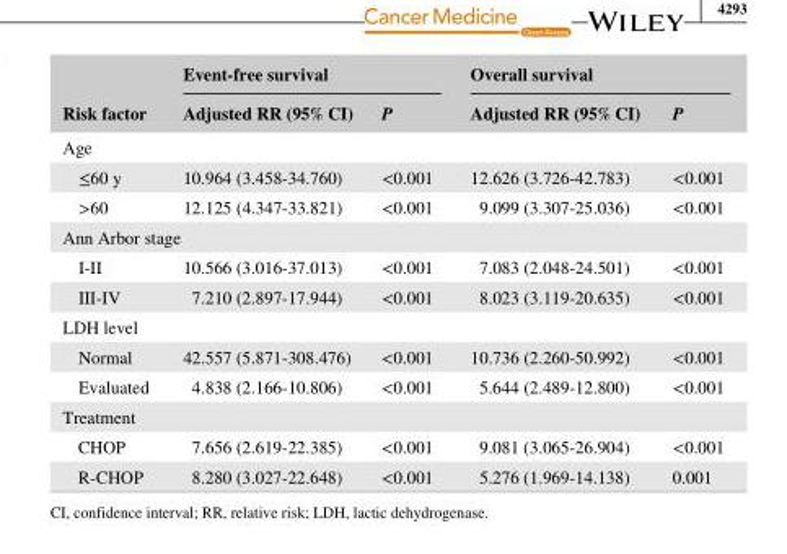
<table><thead><tr><td rowspan="2">Risk factor</td><td colspan="2">Event- free survival</td><td colspan="2">Overall survival</td></tr><tr><td>Adjusted RR (95% CI)</td><td>P</td><td>Adjusted RR (95% CI)</td><td>P</td></tr></thead><tbody><tr><td colspan="5">Age</td></tr><tr><td>≤60 y</td><td>10.964 (3.458- 34.760)</td><td>&lt;0.001</td><td>12.626 (3.726- 42.783)</td><td>&lt;0.001</td></tr><tr><td>&gt;60</td><td>12.125 (4.347- 33.821)</td><td>&lt;0.001</td><td>9.099 (3.307- 25.036)</td><td>&lt;0.001</td></tr><tr><td colspan="5">Ann Arbor stage</td></tr><tr><td>I- II</td><td>10.566 (3.016- 37.013)</td><td>&lt;0.001</td><td>7.083 (2.048- 24.501)</td><td>&lt;0.001</td></tr><tr><td>III- IV</td><td>7.210 (2.897- 17.944)</td><td>&lt;0.001</td><td>8.023 (3.119- 20.635)</td><td>&lt;0.001</td></tr><tr><td colspan="5">LDH level</td></tr><tr><td>Normal</td><td>42.557 (5.871- 308.476)</td><td>&lt;0.001</td><td>10.736 (2.260- 50.992)</td><td>&lt;0.001</td></tr><tr><td>Evaluated</td><td>4.838 (2.166- 10.806)</td><td>&lt;0.001</td><td>5.644 (2.489- 12.800)</td><td>&lt;0.001</td></tr><tr><td colspan="5">Treatment</td></tr><tr><td>CHOP</td><td>7.656 (2.619- 22.385)</td><td>&lt;0.001</td><td>9.081 (3.065- 26.904)</td><td>&lt;0.001</td></tr><tr><td>R- CHOP</td><td>8.280 (3.027- 22.648)</td><td>&lt;0.001</td><td>5.276 (1.969- 14.138)</td><td>0.001</td></tr></tbody></table>